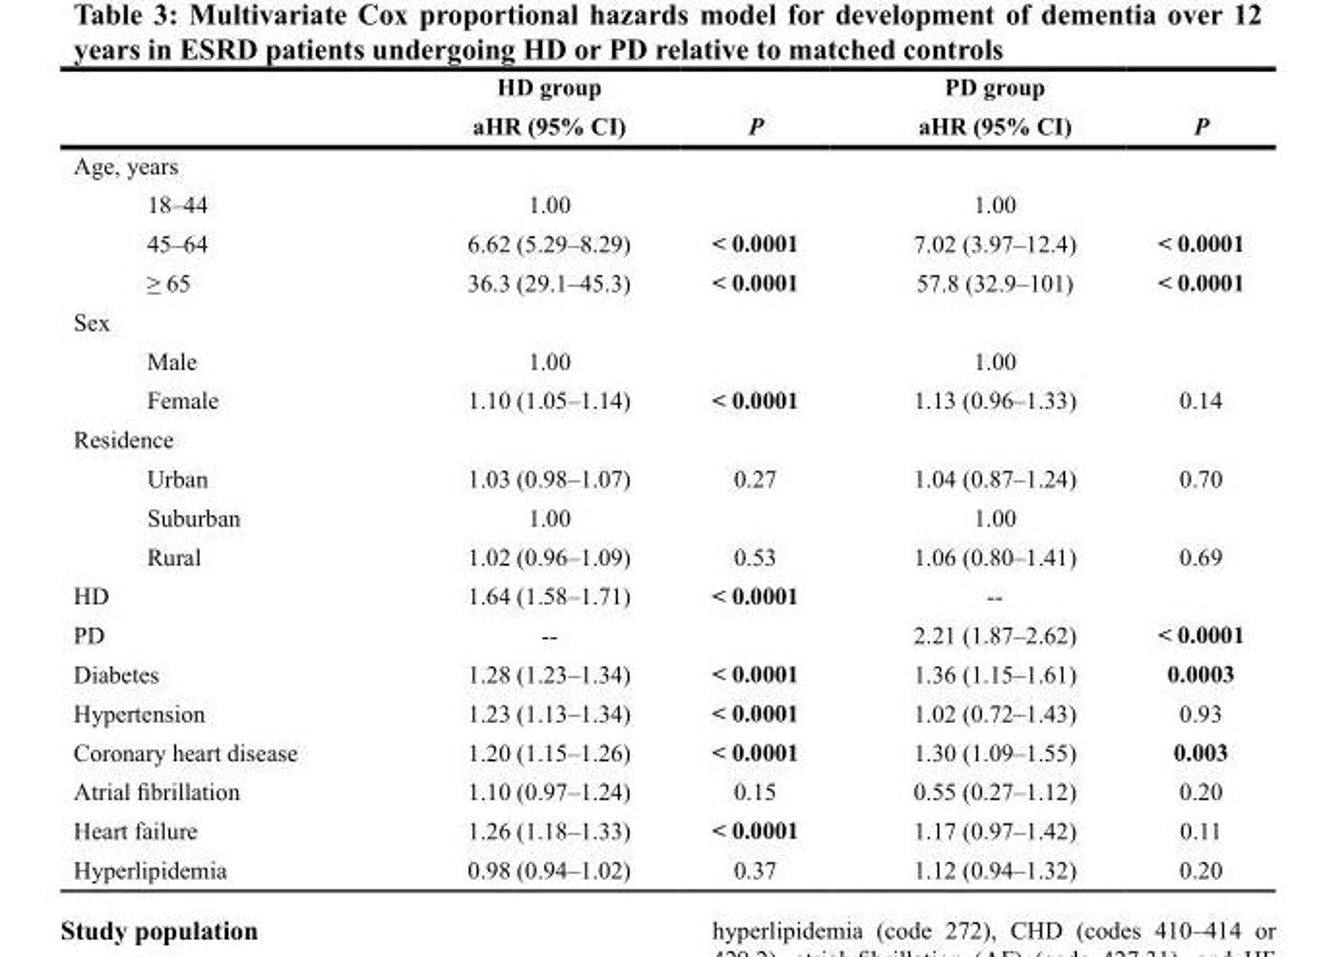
<table><thead><tr><td rowspan="2"></td><td rowspan="2">HD group aHR (95% CI)</td><td rowspan="2">P</td><td rowspan="2">PD group aHR (95% CI)</td><td rowspan="2">P</td></tr><tr></tr></thead><tbody><tr><td colspan="5">Age, years</td></tr><tr><td>18–44</td><td>1.00</td><td></td><td>1.00</td><td></td></tr><tr><td>45–64</td><td>6.62 (5.29–8.29)</td><td>&lt; 0.0001</td><td>7.02 (3.97–12.4)</td><td>&lt; 0.0001</td></tr><tr><td>≥ 65</td><td>36.3 (29.1–45.3)</td><td>&lt; 0.0001</td><td>57.8 (32.9–101)</td><td>&lt; 0.0001</td></tr><tr><td colspan="5">Sex</td></tr><tr><td>Male</td><td>1.00</td><td></td><td>1.00</td><td></td></tr><tr><td>Female</td><td>1.10 (1.05–1.14)</td><td>&lt; 0.0001</td><td>1.13 (0.96–1.33)</td><td>0.14</td></tr><tr><td colspan="5">Residence</td></tr><tr><td>Urban</td><td>1.03 (0.98–1.07)</td><td>0.27</td><td>1.04 (0.87–1.24)</td><td>0.70</td></tr><tr><td>Suburban</td><td>1.00</td><td></td><td>1.00</td><td></td></tr><tr><td>Rural</td><td>1.02 (0.96–1.09)</td><td>0.53</td><td>1.06 (0.80–1.41)</td><td>0.69</td></tr><tr><td>HD</td><td>1.64 (1.58–1.71)</td><td>&lt; 0.0001</td><td>--</td><td></td></tr><tr><td>PD</td><td>--</td><td></td><td>2.21 (1.87–2.62)</td><td>&lt; 0.0001</td></tr><tr><td>Diabetes</td><td>1.28 (1.23–1.34)</td><td>&lt; 0.0001</td><td>1.36 (1.15–1.61)</td><td>0.0003</td></tr><tr><td>Hypertension</td><td>1.23 (1.13–1.34)</td><td>&lt; 0.0001</td><td>1.02 (0.72–1.43)</td><td>0.93</td></tr><tr><td>Coronary heart disease</td><td>1.20 (1.15–1.26)</td><td>&lt; 0.0001</td><td>1.30 (1.09–1.55)</td><td>0.003</td></tr><tr><td>Atrial fibrillation</td><td>1.10 (0.97–1.24)</td><td>0.15</td><td>0.55 (0.27–1.12)</td><td>0.20</td></tr><tr><td>Heart failure</td><td>1.26 (1.18–1.33)</td><td>&lt; 0.0001</td><td>1.17 (0.97–1.42)</td><td>0.11</td></tr><tr><td>Hyperlipidemia</td><td>0.98 (0.94–1.02)</td><td>0.37</td><td>1.12 (0.94–1.32)</td><td>0.20</td></tr></tbody></table>